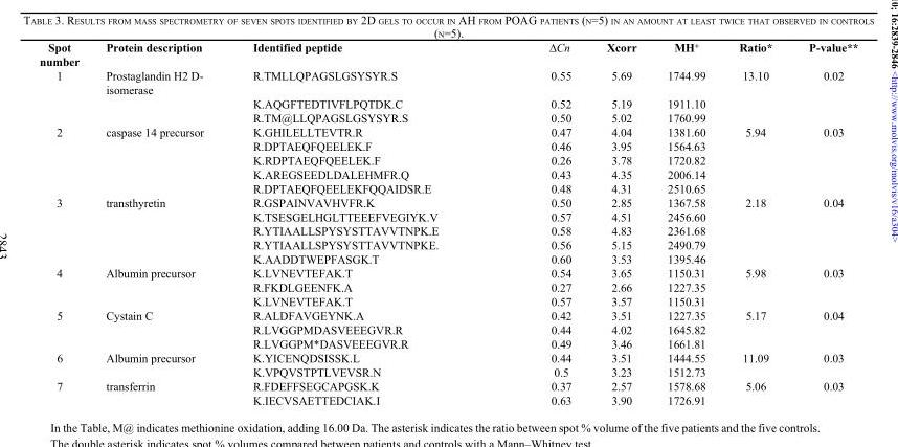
<table><thead><tr><td>Spot number</td><td>Protein description</td><td>Identified peptide</td><td>∆Cn</td><td>Xcorr</td><td>MH<sup>+</sup></td><td>Ratio*</td><td>P-value**</td></tr></thead><tbody><tr><td rowspan="3">1</td><td>Prostaglandin H2 D- isomerase</td><td>R.TMLLQPAGSLGSYSYR.S</td><td>0.55</td><td>5.69</td><td>1744.99</td><td>13.10</td><td>0.02</td></tr><tr><td></td><td>K.AQGFTEDTIVFLPQTDK.C</td><td>0.52</td><td>5.19</td><td>1911.10</td><td></td><td></td></tr><tr><td></td><td>R.TM@LLQPAGSLGSYSYR.S</td><td>0.50</td><td>5.02</td><td>1760.99</td><td></td><td></td></tr><tr><td rowspan="5">2</td><td>caspase 14 precursor</td><td>K.GHILELLTEVTR.R</td><td>0.47</td><td>4.04</td><td>1381.60</td><td>5.94</td><td>0.03</td></tr><tr><td></td><td>R.DPTAEQFQEELEK.F</td><td>0.46</td><td>3.95</td><td>1564.63</td><td></td><td></td></tr><tr><td></td><td>K.RDPTAEQFQEELEK.F</td><td>0.26</td><td>3.78</td><td>1720.82</td><td></td><td></td></tr><tr><td></td><td>K.AREGSEEDLDALEHMFR.Q</td><td>0.43</td><td>4.35</td><td>2006.14</td><td></td><td></td></tr><tr><td></td><td>R.DPTAEQFQEELEKFQQAIDSR.E</td><td>0.48</td><td>4.31</td><td>2510.65</td><td></td><td></td></tr><tr><td rowspan="5">3</td><td>transthyretin</td><td>R.GSPAINVAVHVFR.K</td><td>0.50</td><td>2.85</td><td>1367.58</td><td>2.18</td><td>0.04</td></tr><tr><td></td><td>K.TSESGELHGLTTEEEFVEGIYK.V</td><td>0.57</td><td>4.51</td><td>2456.60</td><td></td><td></td></tr><tr><td></td><td>R.YTIAALLSPYSYSTTAVVTNPK.E</td><td>0.58</td><td>4.83</td><td>2361.68</td><td></td><td></td></tr><tr><td></td><td>R.YTIAALLSPYSYSTTAVVTNPKE.</td><td>0.56</td><td>5.15</td><td>2490.79</td><td></td><td></td></tr><tr><td></td><td>K.AADDTWEPFASGK.T</td><td>0.60</td><td>3.53</td><td>1395.46</td><td></td><td></td></tr><tr><td rowspan="3">4</td><td>Albumin precursor</td><td>K.LVNEVTEFAK.T</td><td>0.54</td><td>3.65</td><td>1150.31</td><td>5.98</td><td>0.03</td></tr><tr><td></td><td>R.FKDLGEENFK.A</td><td>0.27</td><td>2.66</td><td>1227.35</td><td></td><td></td></tr><tr><td></td><td>K.LVNEVTEFAK.T</td><td>0.57</td><td>3.57</td><td>1150.31</td><td></td><td></td></tr><tr><td rowspan="3">5</td><td>Cystain C</td><td>R.ALDFAVGEYNK.A</td><td>0.42</td><td>3.51</td><td>1227.35</td><td>5.17</td><td>0.04</td></tr><tr><td></td><td>R.LVGGPMDASVEEEGVR.R</td><td>0.44</td><td>4.02</td><td>1645.82</td><td></td><td></td></tr><tr><td></td><td>R.LVGGPM*DASVEEEGVR.R</td><td>0.49</td><td>3.46</td><td>1661.81</td><td></td><td></td></tr><tr><td rowspan="2">6</td><td>Albumin precursor</td><td>K.YICENQDSISSK.L</td><td>0.44</td><td>3.51</td><td>1444.55</td><td>11.09</td><td>0.03</td></tr><tr><td></td><td>K.VPQVSTPTLVEVSR.N</td><td>0.5</td><td>3.23</td><td>1512.73</td><td></td><td></td></tr><tr><td rowspan="2">7</td><td>transferrin</td><td>R.FDEFFSEGCAPGSK.K</td><td>0.37</td><td>2.57</td><td>1578.68</td><td>5.06</td><td>0.03</td></tr><tr><td></td><td>K.IECVSAETTEDCIAK.I</td><td>0.63</td><td>3.90</td><td>1726.91</td><td></td><td></td></tr></tbody></table>